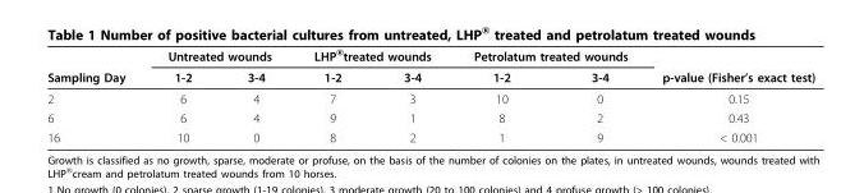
<table><thead><tr><td rowspan="2">Sampling Day</td><td colspan="2">Untreated wounds</td><td colspan="2">LHP<sup>®</sup>treated wounds</td><td colspan="2">Petrolatum treated wounds</td><td rowspan="2">p-value (Fisher’s exact test)</td></tr><tr><td>1-2</td><td>3-4</td><td>1-2</td><td>3-4</td><td>1-2</td><td>3-4</td></tr></thead><tbody><tr><td>2</td><td>6</td><td>4</td><td>7</td><td>3</td><td>10</td><td>0</td><td>0.15</td></tr><tr><td>6</td><td>6</td><td>4</td><td>9</td><td>1</td><td>8</td><td>2</td><td>0.43</td></tr><tr><td>16</td><td>10</td><td>0</td><td>8</td><td>2</td><td>1</td><td>9</td><td>&lt; 0.001</td></tr></tbody></table>